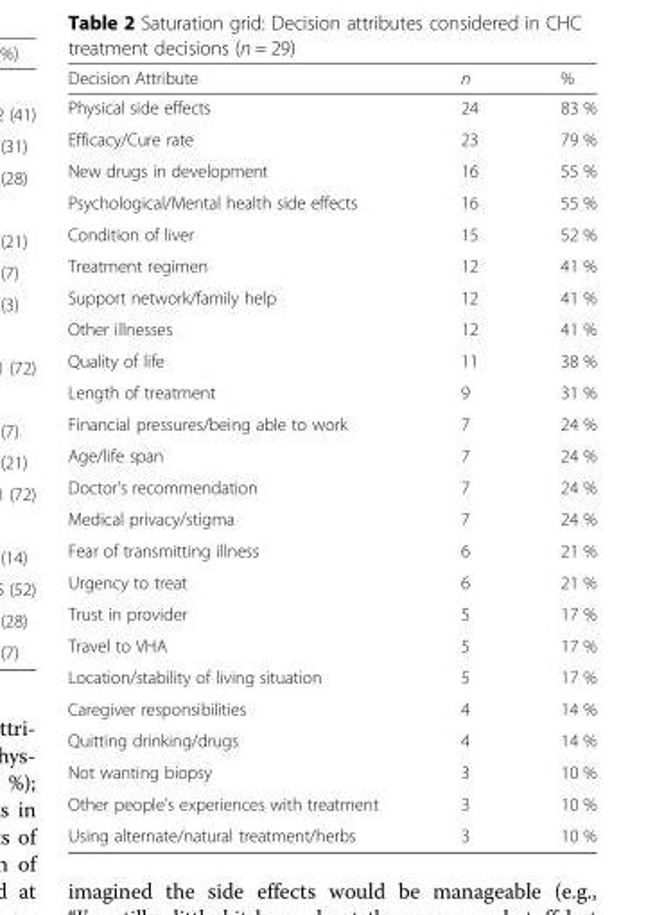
<table><thead><tr><td>Decision Attribute</td><td>n</td><td>%</td></tr></thead><tbody><tr><td>Physical side effects</td><td>24</td><td>83 %</td></tr><tr><td>Efficacy/Cure rate</td><td>23</td><td>79 %</td></tr><tr><td>New drugs in development</td><td>16</td><td>55 %</td></tr><tr><td>Psychological/Mental health side effects</td><td>16</td><td>55 %</td></tr><tr><td>Condition of liver</td><td>15</td><td>52 %</td></tr><tr><td>Treatment regimen</td><td>12</td><td>41 %</td></tr><tr><td>Support network/family help</td><td>12</td><td>41 %</td></tr><tr><td>Other illnesses</td><td>12</td><td>41 %</td></tr><tr><td>Quality of life</td><td>11</td><td>38 %</td></tr><tr><td>Length of treatment</td><td>9</td><td>31 %</td></tr><tr><td>Financial pressures/being able to work</td><td>7</td><td>24 %</td></tr><tr><td>Age/life span</td><td>7</td><td>24 %</td></tr><tr><td>Doctor’s recommendation</td><td>7</td><td>24 %</td></tr><tr><td>Medical privacy/stigma</td><td>7</td><td>24 %</td></tr><tr><td>Fear of transmitting illness</td><td>6</td><td>21 %</td></tr><tr><td>Urgency to treat</td><td>6</td><td>21 %</td></tr><tr><td>Trust in provider</td><td>5</td><td>17 %</td></tr><tr><td>Travel to VHA</td><td>5</td><td>17 %</td></tr><tr><td>Location/stability of living situation</td><td>5</td><td>17 %</td></tr><tr><td>Caregiver responsibilities</td><td>4</td><td>14 %</td></tr><tr><td>Quitting drinking/drugs</td><td>4</td><td>14 %</td></tr><tr><td>Not wanting biopsy</td><td>3</td><td>10 %</td></tr><tr><td>Other people’s experiences with treatment</td><td>3</td><td>10 %</td></tr><tr><td>Using alternate/natural treatment/herbs</td><td>3</td><td>10 %</td></tr></tbody></table>